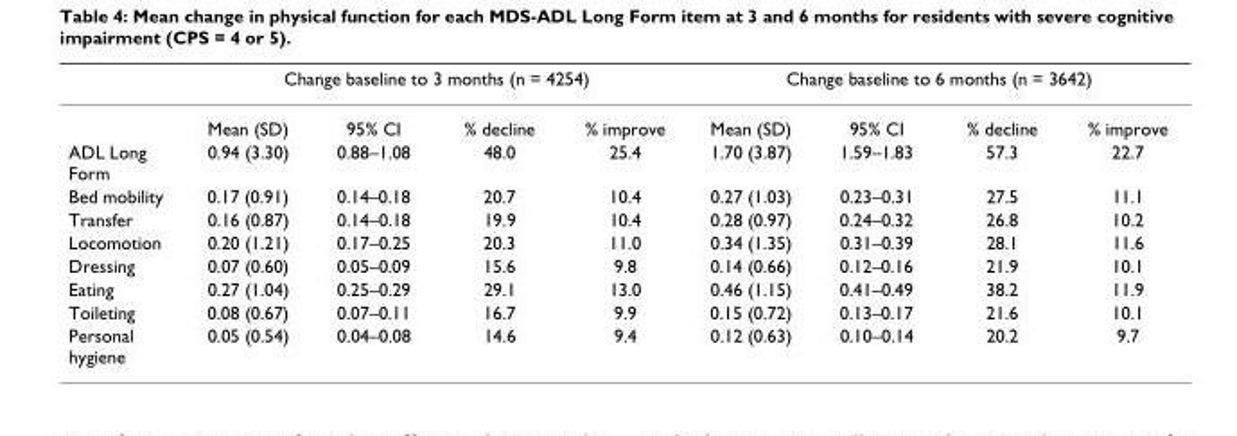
<table><thead><tr><td rowspan="2"></td><td colspan="4">Change baseline to 3 months (n = 4254)</td><td colspan="4">Change baseline to 6 months (n = 3642)</td></tr><tr><td>Mean (SD)</td><td>95% CI</td><td>% decline</td><td>% improve</td><td>Mean (SD)</td><td>95% CI</td><td>% decline</td><td>% improve</td></tr></thead><tbody><tr><td>ADL Long Form</td><td>0.94 (3.30)</td><td>0.88–1.08</td><td>48.0</td><td>25.4</td><td>1.70 (3.87)</td><td>1.59–1.83</td><td>57.3</td><td>22.7</td></tr><tr><td>Bed mobility</td><td>0.17 (0.91)</td><td>0.14–0.18</td><td>20.7</td><td>10.4</td><td>0.27 (1.03)</td><td>0.23–0.31</td><td>27.5</td><td>11.1</td></tr><tr><td>Transfer</td><td>0.16 (0.87)</td><td>0.14–0.18</td><td>19.9</td><td>10.4</td><td>0.28 (0.97)</td><td>0.24–0.32</td><td>26.8</td><td>10.2</td></tr><tr><td>Locomotion</td><td>0.20 (1.21)</td><td>0.17–0.25</td><td>20.3</td><td>11.0</td><td>0.34 (1.35)</td><td>0.31–0.39</td><td>28.1</td><td>11.6</td></tr><tr><td>Dressing</td><td>0.07 (0.60)</td><td>0.05–0.09</td><td>15.6</td><td>9.8</td><td>0.14 (0.66)</td><td>0.12–0.16</td><td>21.9</td><td>10.1</td></tr><tr><td>Eating</td><td>0.27 (1.04)</td><td>0.25–0.29</td><td>29.1</td><td>13.0</td><td>0.46 (1.15)</td><td>0.41–0.49</td><td>38.2</td><td>11.9</td></tr><tr><td>Toileting</td><td>0.08 (0.67)</td><td>0.07–0.11</td><td>16.7</td><td>9.9</td><td>0.15 (0.72)</td><td>0.13–0.17</td><td>21.6</td><td>10.1</td></tr><tr><td>Personal hygiene</td><td>0.05 (0.54)</td><td>0.04–0.08</td><td>14.6</td><td>9.4</td><td>0.12 (0.63)</td><td>0.10–0.14</td><td>20.2</td><td>9.7</td></tr></tbody></table>